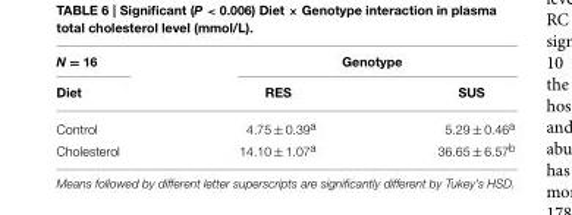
<table><thead><tr><td rowspan="2">N = 16 Diet</td><td colspan="2">Genotype</td></tr><tr><td>RES</td><td>SUS</td></tr></thead><tbody><tr><td>Control</td><td>4.75 ± 0.39<sup>a</sup></td><td>5.29 ± 0.46<sup>a</sup></td></tr><tr><td>Cholesterol</td><td>14.10 ± 1.07<sup>a</sup></td><td>36.65 ± 6.57<sup>b</sup></td></tr></tbody></table>